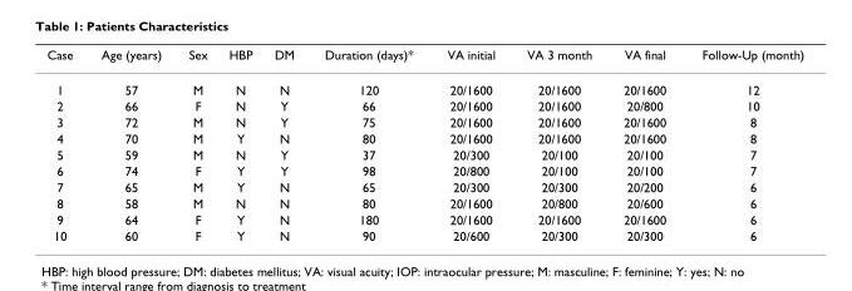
<table><thead><tr><td>Case</td><td>Age (years)</td><td>Sex</td><td>HBP</td><td>DM</td><td>Duration (days)*</td><td>VA initial</td><td>VA 3 month</td><td>VA final</td><td>Follow-Up (month)</td></tr></thead><tbody><tr><td>1</td><td>57</td><td>M</td><td>N</td><td>N</td><td>120</td><td>20/1600</td><td>20/1600</td><td>20/1600</td><td>12</td></tr><tr><td>2</td><td>66</td><td>F</td><td>N</td><td>Y</td><td>66</td><td>20/1600</td><td>20/1600</td><td>20/800</td><td>10</td></tr><tr><td>3</td><td>72</td><td>M</td><td>N</td><td>Y</td><td>75</td><td>20/1600</td><td>20/1600</td><td>20/1600</td><td>8</td></tr><tr><td>4</td><td>70</td><td>M</td><td>Y</td><td>N</td><td>80</td><td>20/1600</td><td>20/1600</td><td>20/1600</td><td>8</td></tr><tr><td>5</td><td>59</td><td>M</td><td>N</td><td>Y</td><td>37</td><td>20/300</td><td>20/100</td><td>20/100</td><td>7</td></tr><tr><td>6</td><td>74</td><td>F</td><td>Y</td><td>Y</td><td>98</td><td>20/800</td><td>20/100</td><td>20/100</td><td>7</td></tr><tr><td>7</td><td>65</td><td>M</td><td>Y</td><td>N</td><td>65</td><td>20/300</td><td>20/300</td><td>20/200</td><td>6</td></tr><tr><td>8</td><td>58</td><td>M</td><td>N</td><td>N</td><td>80</td><td>20/1600</td><td>20/800</td><td>20/600</td><td>6</td></tr><tr><td>9</td><td>64</td><td>F</td><td>Y</td><td>N</td><td>180</td><td>20/1600</td><td>20/1600</td><td>20/1600</td><td>6</td></tr><tr><td>10</td><td>60</td><td>F</td><td>Y</td><td>N</td><td>90</td><td>20/600</td><td>20/300</td><td>20/300</td><td>6</td></tr></tbody></table>